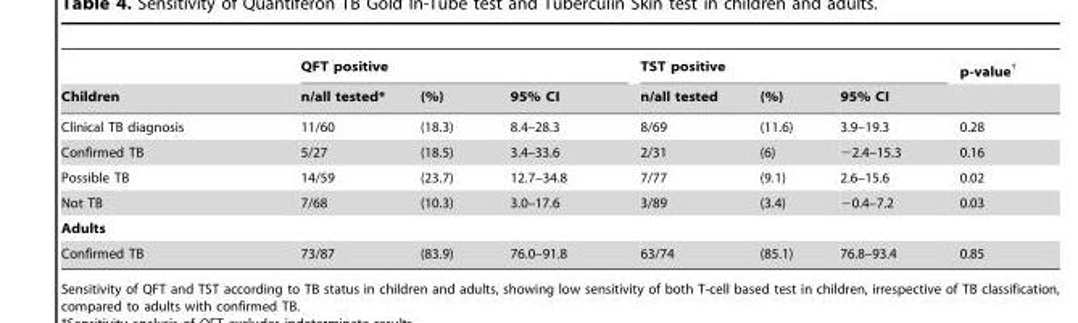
<table><thead><tr><td rowspan="2">Children</td><td colspan="3">QFT positive</td><td colspan="3">TST positive</td><td rowspan="2">p-value†</td></tr><tr><td>n/all tested*</td><td>(%)</td><td>95% CI</td><td>n/all tested</td><td>(%)</td><td>95% CI</td></tr></thead><tbody><tr><td>Clinical TB diagnosis</td><td>11/60</td><td>(18.3)</td><td>8.4–28.3</td><td>8/69</td><td>(11.6)</td><td>3.9–19.3</td><td>0.28</td></tr><tr><td>Confirmed TB</td><td>5/27</td><td>(18.5)</td><td>3.4–33.6</td><td>2/31</td><td>(6)</td><td>−2.4–15.3</td><td>0.16</td></tr><tr><td>Possible TB</td><td>14/59</td><td>(23.7)</td><td>12.7–34.8</td><td>7/77</td><td>(9.1)</td><td>2.6–15.6</td><td>0.02</td></tr><tr><td>Not TB</td><td>7/68</td><td>(10.3)</td><td>3.0–17.6</td><td>3/89</td><td>(3.4)</td><td>−0.4–7.2</td><td>0.03</td></tr><tr><td colspan="8">Adults</td></tr><tr><td>Confirmed TB</td><td>73/87</td><td>(83.9)</td><td>76.0–91.8</td><td>63/74</td><td>(85.1)</td><td>76.8–93.4</td><td>0.85</td></tr></tbody></table>